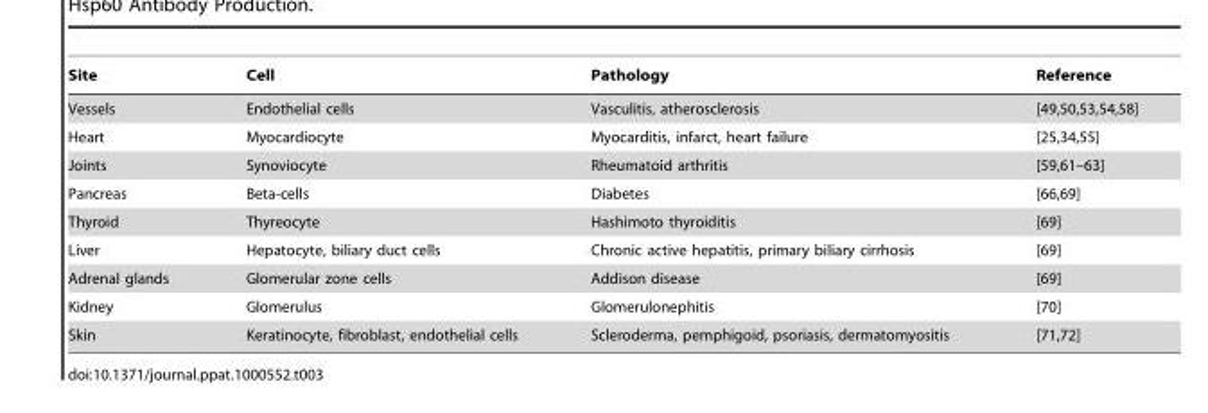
<table><thead><tr><td>Site</td><td>Cell</td><td>Pathology</td><td>Reference</td></tr></thead><tbody><tr><td>Vessels</td><td>Endothelial cells</td><td>Vasculitis, atherosclerosis</td><td>[49,50,53,54,58]</td></tr><tr><td>Heart</td><td>Myocardiocyte</td><td>Myocarditis, infarct, heart failure</td><td>[25,34,55]</td></tr><tr><td>Joints</td><td>Synoviocyte</td><td>Rheumatoid arthritis</td><td>[59,61–63]</td></tr><tr><td>Pancreas</td><td>Beta-cells</td><td>Diabetes</td><td>[66,69]</td></tr><tr><td>Thyroid</td><td>Thyreocyte</td><td>Hashimoto thyroiditis</td><td>[69]</td></tr><tr><td>Liver</td><td>Hepatocyte, biliary duct cells</td><td>Chronic active hepatitis, primary biliary cirrhosis</td><td>[69]</td></tr><tr><td>Adrenal glands</td><td>Glomerular zone cells</td><td>Addison disease</td><td>[69]</td></tr><tr><td>Kidney</td><td>Glomerulus</td><td>Glomerulonephitis</td><td>[70]</td></tr><tr><td>Skin</td><td>Keratinocyte, fibroblast, endothelial cells</td><td>Scleroderma, pemphigoid, psoriasis, dermatomyositis</td><td>[71,72]</td></tr></tbody></table>